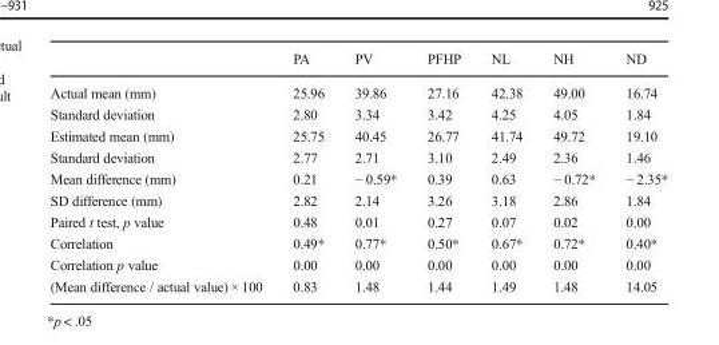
<table><thead><tr><td></td><td>PA</td><td>PV</td><td>PFHP</td><td>NL</td><td>NH</td><td>ND</td></tr></thead><tbody><tr><td>Actual mean (mm)</td><td>25.96</td><td>39.86</td><td>27.16</td><td>42.38</td><td>49.00</td><td>16.74</td></tr><tr><td>Standard deviation</td><td>2.80</td><td>3.34</td><td>3.42</td><td>4.25</td><td>4.05</td><td>1.84</td></tr><tr><td>Estimated mean (mm)</td><td>25.75</td><td>40.45</td><td>26.77</td><td>41.74</td><td>49.72</td><td>19.10</td></tr><tr><td>Standard deviation</td><td>2.77</td><td>2.71</td><td>3.10</td><td>2.49</td><td>2.36</td><td>1.46</td></tr><tr><td>Mean difference (mm)</td><td>0.21</td><td>− 0.59*</td><td>0.39</td><td>0.63</td><td>− 0.72*</td><td>− 2.35*</td></tr><tr><td>SD difference (mm)</td><td>2.82</td><td>2.14</td><td>3.26</td><td>3.18</td><td>2.86</td><td>1.84</td></tr><tr><td>Paired t test, p value</td><td>0.48</td><td>0.01</td><td>0.27</td><td>0.07</td><td>0.02</td><td>0.00</td></tr><tr><td>Correlation</td><td>0.49*</td><td>0.77*</td><td>0.50*</td><td>0.67*</td><td>0.72*</td><td>0.40*</td></tr><tr><td>Correlation p value</td><td>0.00</td><td>0.00</td><td>0.00</td><td>0.00</td><td>0.00</td><td>0.00</td></tr><tr><td>(Mean difference / actual value) × 100</td><td>0.83</td><td>1.48</td><td>1.44</td><td>1.49</td><td>1.48</td><td>14.05</td></tr></tbody></table>